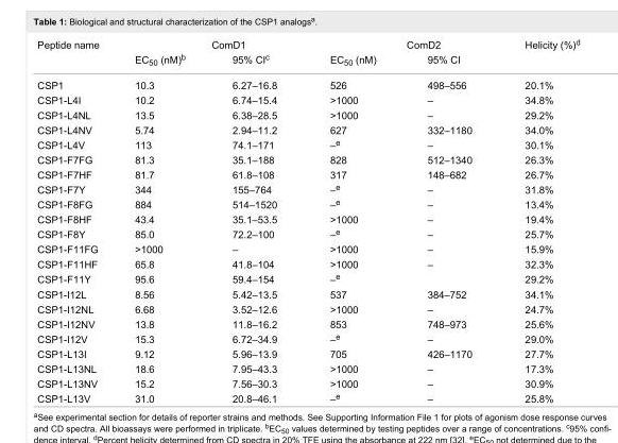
<table><tbody><tr><td rowspan="2">Peptide name</td><td colspan="2">ComD1</td><td colspan="2">ComD2</td><td rowspan="2">Helicity (%)<sup>d</sup></td></tr><tr><td>EC<sub>50</sub> (nM)<sup>b</sup></td><td>95% CI<sup>c</sup></td><td>EC<sub>50</sub> (nM)</td><td>95% CI</td></tr><tr><td>CSP1</td><td>10.3</td><td>6.27–16.8</td><td>526</td><td>498–556</td><td>20.1%</td></tr><tr><td>CSP1-L4I</td><td>10.2</td><td>6.74–15.4</td><td>&gt;1000</td><td>–</td><td>34.8%</td></tr><tr><td>CSP1-L4NL</td><td>13.5</td><td>6.38–28.5</td><td>&gt;1000</td><td>–</td><td>29.2%</td></tr><tr><td>CSP1-L4NV</td><td>5.74</td><td>2.94–11.2</td><td>627</td><td>332–1180</td><td>34.0%</td></tr><tr><td>CSP1-L4V</td><td>113</td><td>74.1–171</td><td>–<sup>e</sup></td><td>–</td><td>30.1%</td></tr><tr><td>CSP1-F7FG</td><td>81.3</td><td>35.1–188</td><td>828</td><td>512–1340</td><td>26.3%</td></tr><tr><td>CSP1-F7HF</td><td>81.7</td><td>61.8–108</td><td>317</td><td>148–682</td><td>26.7%</td></tr><tr><td>CSP1-F7Y</td><td>344</td><td>155–764</td><td>–<sup>e</sup></td><td>–</td><td>31.8%</td></tr><tr><td>CSP1-F8FG</td><td>884</td><td>514–1520</td><td>–<sup>e</sup></td><td>–</td><td>13.4%</td></tr><tr><td>CSP1-F8HF</td><td>43.4</td><td>35.1–53.5</td><td>&gt;1000</td><td>–</td><td>19.4%</td></tr><tr><td>CSP1-F8Y</td><td>85.0</td><td>72.2–100</td><td>–<sup>e</sup></td><td>–</td><td>25.7%</td></tr><tr><td>CSP1-F11FG</td><td>&gt;1000</td><td>–</td><td>&gt;1000</td><td>–</td><td>15.9%</td></tr><tr><td>CSP1-F11HF</td><td>65.8</td><td>41.8–104</td><td>&gt;1000</td><td>–</td><td>32.3%</td></tr><tr><td>CSP1-F11Y</td><td>95.6</td><td>59.4–154</td><td>–<sup>e</sup></td><td></td><td>29.2%</td></tr><tr><td>CSP1-I12L</td><td>8.56</td><td>5.42–13.5</td><td>537</td><td>384–752</td><td>34.1%</td></tr><tr><td>CSP1-I12NL</td><td>6.68</td><td>3.52–12.6</td><td>&gt;1000</td><td>–</td><td>24.7%</td></tr><tr><td>CSP1-I12NV</td><td>13.8</td><td>11.8–16.2</td><td>853</td><td>748–973</td><td>25.6%</td></tr><tr><td>CSP1-I12V</td><td>15.3</td><td>6.72–34.9</td><td>–<sup>e</sup></td><td>–</td><td>29.0%</td></tr><tr><td>CSP1-L13I</td><td>9.12</td><td>5.96–13.9</td><td>705</td><td>426–1170</td><td>27.7%</td></tr><tr><td>CSP1-L13NL</td><td>18.6</td><td>7.95–43.3</td><td>&gt;1000</td><td>–</td><td>17.3%</td></tr><tr><td>CSP1-L13NV</td><td>15.2</td><td>7.56–30.3</td><td>&gt;1000</td><td>–</td><td>30.9%</td></tr><tr><td>CSP1-L13V</td><td>31.0</td><td>20.8–46.1</td><td>–<sup>e</sup></td><td>–</td><td>25.8%</td></tr></tbody></table>